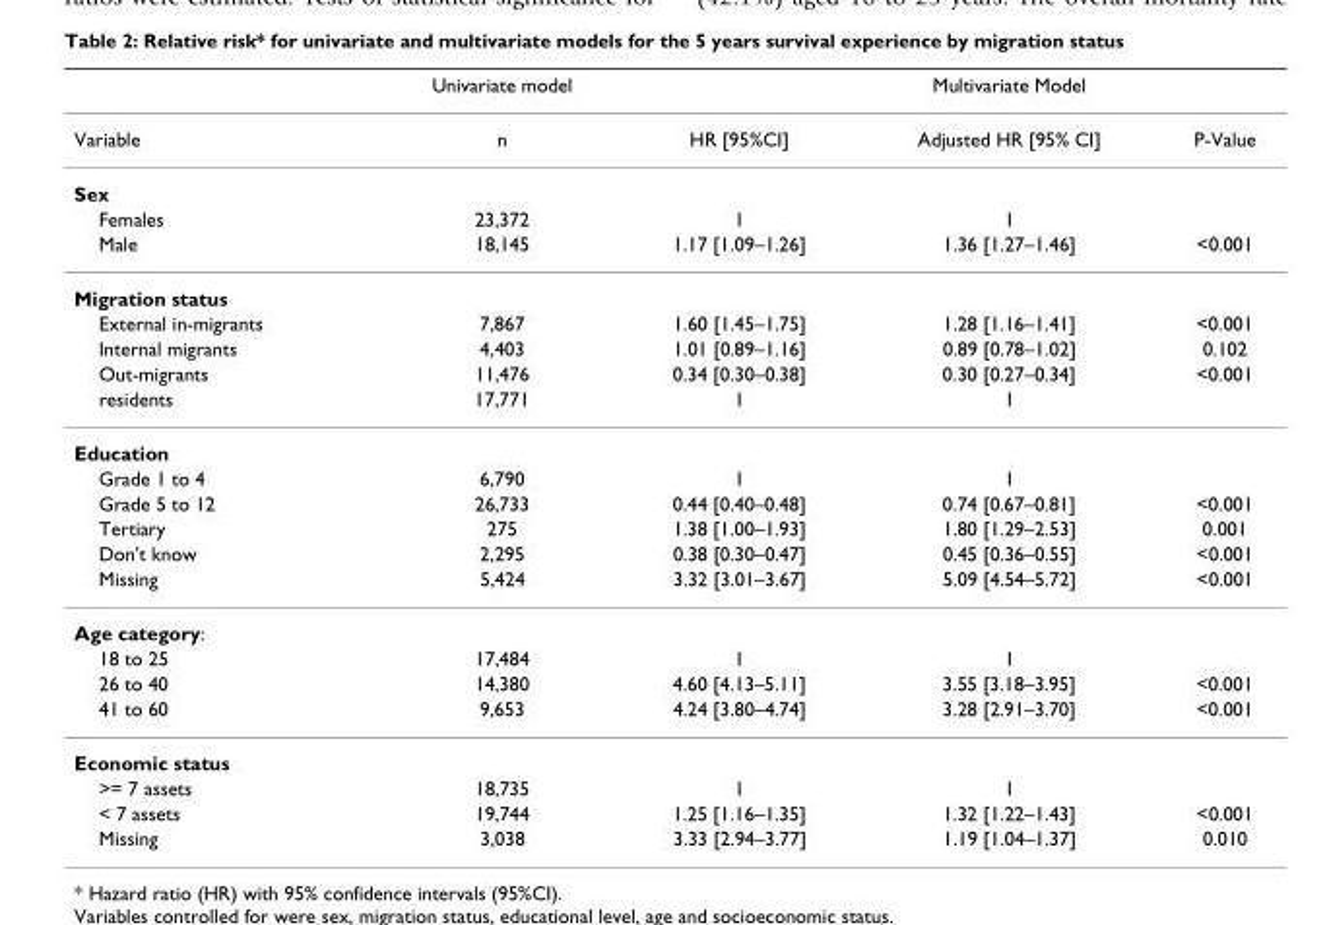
<table><thead><tr><td></td><td>Univariate model</td><td></td><td>Multivariate Model</td><td></td></tr></thead><tbody><tr><td>Variable</td><td>n</td><td>HR [95%CI]</td><td>Adjusted HR [95% CI]</td><td>P-Value</td></tr><tr><td colspan="5">Sex</td></tr><tr><td>Females</td><td>23,372</td><td>1</td><td>1</td><td></td></tr><tr><td>Male</td><td>18,145</td><td>1.17 [1.09–1.26]</td><td>1.36 [1.27–1.46]</td><td>&lt;0.001</td></tr><tr><td colspan="5">Migration status</td></tr><tr><td>External in-migrants</td><td>7,867</td><td>1.60 [1.45–1.75]</td><td>1.28 [1.16–1.41]</td><td>&lt;0.001</td></tr><tr><td>Internal migrants</td><td>4,403</td><td>1.01 [0.89–1.16]</td><td>0.89 [0.78–1.02]</td><td>0.102</td></tr><tr><td>Out-migrants</td><td>11,476</td><td>0.34 [0.30–0.38]</td><td>0.30 [0.27–0.34]</td><td>&lt;0.001</td></tr><tr><td>residents</td><td>17,771</td><td>1</td><td>1</td><td></td></tr><tr><td colspan="5">Education</td></tr><tr><td>Grade 1 to 4</td><td>6,790</td><td>1</td><td>1</td><td></td></tr><tr><td>Grade 5 to 12</td><td>26,733</td><td>0.44 [0.40–0.48]</td><td>0.74 [0.67–0.81]</td><td>&lt;0.001</td></tr><tr><td>Tertiary</td><td>275</td><td>1.38 [1.00–1.93]</td><td>1.80 [1.29–2.53]</td><td>0.001</td></tr><tr><td>Don&#x27;t know</td><td>2,295</td><td>0.38 [0.30–0.47]</td><td>0.45 [0.36–0.55]</td><td>&lt;0.001</td></tr><tr><td>Missing</td><td>5,424</td><td>3.32 [3.01–3.67]</td><td>5.09 [4.54–5.72]</td><td>&lt;0.001</td></tr><tr><td colspan="5">Age category:</td></tr><tr><td>18 to 25</td><td>17,484</td><td>1</td><td>1</td><td></td></tr><tr><td>26 to 40</td><td>14,380</td><td>4.60 [4.13–5.11]</td><td>3.55 [3.18–3.95]</td><td>&lt;0.001</td></tr><tr><td>41 to 60</td><td>9,653</td><td>4.24 [3.80–4.74]</td><td>3.28 [2.91–3.70]</td><td>&lt;0.001</td></tr><tr><td colspan="5">Economic status</td></tr><tr><td>&gt;= 7 assets</td><td>18,735</td><td>1</td><td>1</td><td></td></tr><tr><td>&lt; 7 assets</td><td>19,744</td><td>1.25 [1.16–1.35]</td><td>1.32 [1.22–1.43]</td><td>&lt;0.001</td></tr><tr><td>Missing</td><td>3,038</td><td>3.33 [2.94–3.77]</td><td>1.19 [1.04–1.37]</td><td>0.010</td></tr></tbody></table>